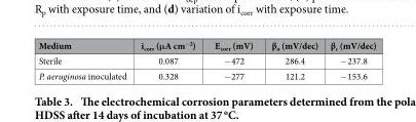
<table><thead><tr><td>Medium</td><td>i<sub>corr</sub> (μA cm<sup>−2</sup>)</td><td>E<sub>corr</sub> (mV)</td><td>β<sub>a</sub> (mV/dec)</td><td>β<sub>c</sub> (mV/dec)</td></tr></thead><tbody><tr><td>Sterile</td><td>0.087</td><td>− 472</td><td>286.4</td><td>− 237.8</td></tr><tr><td>P. aeruginosa inoculated</td><td>0.328</td><td>− 277</td><td>121.2</td><td>− 153.6</td></tr></tbody></table>